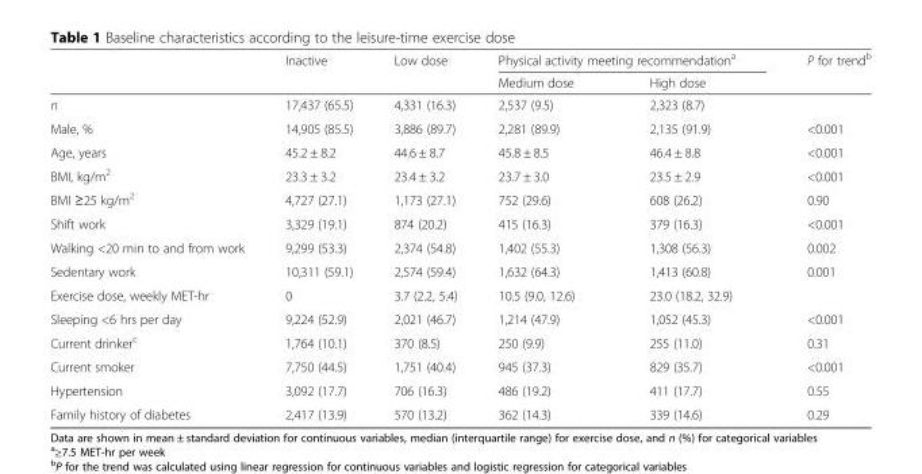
<table><thead><tr><td rowspan="2"></td><td rowspan="2">Inactive</td><td rowspan="2">Low dose</td><td colspan="2">Physical activity meeting recommendation<sup>a</sup></td><td rowspan="2">P for trend<sup>b</sup></td></tr><tr><td>Medium dose</td><td>High dose</td></tr></thead><tbody><tr><td>n</td><td>17,437 (65.5)</td><td>4,331 (16.3)</td><td>2,537 (9.5)</td><td>2,323 (8.7)</td><td></td></tr><tr><td>Male, %</td><td>14,905 (85.5)</td><td>3,886 (89.7)</td><td>2,281 (89.9)</td><td>2,135 (91.9)</td><td>&lt;0.001</td></tr><tr><td>Age, years</td><td>45.2 ± 8.2</td><td>44.6 ± 8.7</td><td>45.8 ± 8.5</td><td>46.4 ± 8.8</td><td>&lt;0.001</td></tr><tr><td>BMI, kg/m<sup>2</sup></td><td>23.3 ± 3.2</td><td>23.4 ± 3.2</td><td>23.7 ± 3.0</td><td>23.5 ± 2.9</td><td>&lt;0.001</td></tr><tr><td>BMI ≥25 kg/m<sup>2</sup></td><td>4,727 (27.1)</td><td>1,173 (27.1)</td><td>752 (29.6)</td><td>608 (26.2)</td><td>0.90</td></tr><tr><td>Shift work</td><td>3,329 (19.1)</td><td>874 (20.2)</td><td>415 (16.3)</td><td>379 (16.3)</td><td>&lt;0.001</td></tr><tr><td>Walking &lt;20 min to and from work</td><td>9,299 (53.3)</td><td>2,374 (54.8)</td><td>1,402 (55.3)</td><td>1,308 (56.3)</td><td>0.002</td></tr><tr><td>Sedentary work</td><td>10,311 (59.1)</td><td>2,574 (59.4)</td><td>1,632 (64.3)</td><td>1,413 (60.8)</td><td>0.001</td></tr><tr><td>Exercise dose, weekly MET-hr</td><td>0</td><td>3.7 (2.2, 5.4)</td><td>10.5 (9.0, 12.6)</td><td>23.0 (18.2, 32.9)</td><td></td></tr><tr><td>Sleeping &lt;6 hrs per day</td><td>9,224 (52.9)</td><td>2,021 (46.7)</td><td>1,214 (47.9)</td><td>1,052 (45.3)</td><td>&lt;0.001</td></tr><tr><td>Current drinker<sup>c</sup></td><td>1,764 (10.1)</td><td>370 (8.5)</td><td>250 (9.9)</td><td>255 (11.0)</td><td>0.31</td></tr><tr><td>Current smoker</td><td>7,750 (44.5)</td><td>1,751 (40.4)</td><td>945 (37.3)</td><td>829 (35.7)</td><td>&lt;0.001</td></tr><tr><td>Hypertension</td><td>3,092 (17.7)</td><td>706 (16.3)</td><td>486 (19.2)</td><td>411 (17.7)</td><td>0.55</td></tr><tr><td>Family history of diabetes</td><td>2,417 (13.9)</td><td>570 (13.2)</td><td>362 (14.3)</td><td>339 (14.6)</td><td>0.29</td></tr></tbody></table>